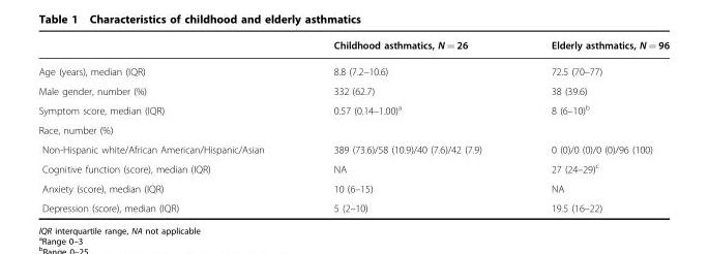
<table><thead><tr><td></td><td>Childhood asthmatics, N = 26</td><td>Elderly asthmatics, N = 96</td></tr></thead><tbody><tr><td>Age (years), median (IQR)</td><td>8.8 (7.2–10.6)</td><td>72.5 (70–77)</td></tr><tr><td>Male gender, number (%)</td><td>332 (62.7)</td><td>38 (39.6)</td></tr><tr><td>Symptom score, median (IQR)</td><td>0.57 (0.14–1.00)<sup>a</sup></td><td>8 (6–10)<sup>b</sup></td></tr><tr><td colspan="3">Race, number (%)</td></tr><tr><td>Non-Hispanic white/African American/Hispanic/Asian</td><td>389 (73.6)/58 (10.9)/40 (7.6)/42 (7.9)</td><td>0 (0)/0 (0)/0 (0)/96 (100)</td></tr><tr><td>Cognitive function (score), median (IQR)</td><td>NA</td><td>27 (24–29)<sup>c</sup></td></tr><tr><td>Anxiety (score), median (IQR)</td><td>10 (6–15)</td><td>NA</td></tr><tr><td>Depression (score), median (IQR)</td><td>5 (2–10)</td><td>19.5 (16–22)</td></tr></tbody></table>